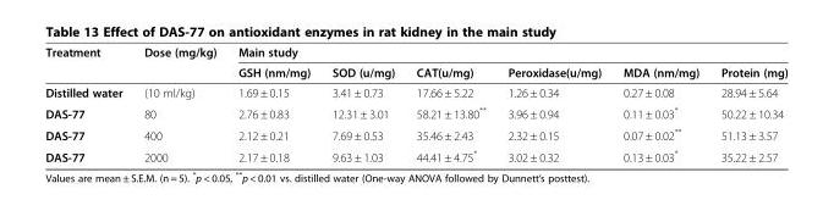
<table><thead><tr><td rowspan="2">Treatment</td><td rowspan="2">Dose (mg/kg)</td><td colspan="6">Main study</td></tr><tr><td>GSH (nm/mg)</td><td>SOD (u/mg)</td><td>CAT(u/mg)</td><td>Peroxidase(u/mg)</td><td>MDA (nm/mg)</td><td>Protein (mg)</td></tr></thead><tbody><tr><td>Distilled water</td><td>(10 ml/kg)</td><td>1.69 ± 0.15</td><td>3.41 ± 0.73</td><td>17.66 ± 5.22</td><td>1.26 ± 0.34</td><td>0.27 ± 0.08</td><td>28.94 ± 5.64</td></tr><tr><td>DAS-77</td><td>80</td><td>2.76 ± 0.83</td><td>12.31 ± 3.01</td><td>58.21 ± 13.80**</td><td>3.96 ± 0.94</td><td>0.11 ± 0.03*</td><td>50.22 ± 10.34</td></tr><tr><td>DAS-77</td><td>400</td><td>2.12 ± 0.21</td><td>7.69 ± 0.53</td><td>35.46 ± 2.43</td><td>2.32 ± 0.15</td><td>0.07 ± 0.02**</td><td>51.13 ± 3.57</td></tr><tr><td>DAS-77</td><td>2000</td><td>2.17 ± 0.18</td><td>9.63 ± 1.03</td><td>44.41 ± 4.75*</td><td>3.02 ± 0.32</td><td>0.13 ± 0.03*</td><td>35.22 ± 2.57</td></tr></tbody></table>